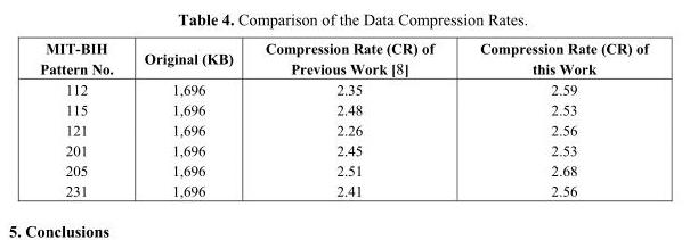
<table><thead><tr><td>MIT-BIH Pattern No.</td><td>Original (KB)</td><td>Compression Rate (CR) of Previous Work [8]</td><td>Compression Rate (CR) of this Work</td></tr></thead><tbody><tr><td>112</td><td>1,696</td><td>2.35</td><td>2.59</td></tr><tr><td>115</td><td>1,696</td><td>2.48</td><td>2.53</td></tr><tr><td>121</td><td>1,696</td><td>2.26</td><td>2.56</td></tr><tr><td>201</td><td>1,696</td><td>2.45</td><td>2.53</td></tr><tr><td>205</td><td>1,696</td><td>2.51</td><td>2.68</td></tr><tr><td>231</td><td>1,696</td><td>2.41</td><td>2.56</td></tr></tbody></table>